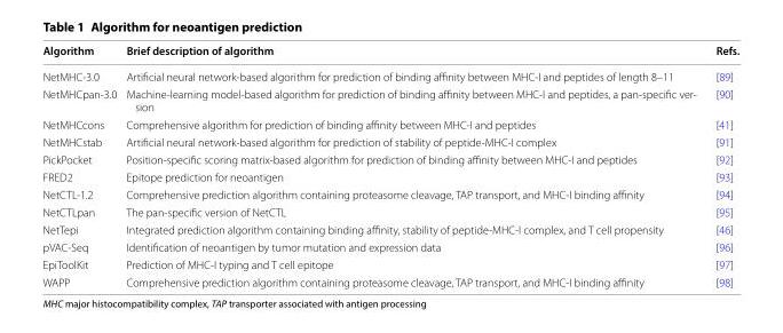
<table><thead><tr><td>Algorithm</td><td>Brief description of algorithm</td><td>Refs.</td></tr></thead><tbody><tr><td>NetMHC-3.0</td><td>Artificial neural network-based algorithm for prediction of binding affinity between MHC-I and peptides of length 8–11</td><td>[89]</td></tr><tr><td>NetMHCpan-3.0</td><td>Machine-learning model-based algorithm for prediction of binding affinity between MHC-I and peptides, a pan-specific ver- sion</td><td>[90]</td></tr><tr><td>NetMHCcons</td><td>Comprehensive algorithm for prediction of binding affinity between MHC-I and peptides</td><td>[41]</td></tr><tr><td>NetMHCstab</td><td>Artificial neural network-based algorithm for prediction of stability of peptide-MHC-I complex</td><td>[91]</td></tr><tr><td>PickPocket</td><td>Position-specific scoring matrix-based algorithm for prediction of binding affinity between MHC-I and peptides</td><td>[92]</td></tr><tr><td>FRED2</td><td>Epitope prediction for neoantigen</td><td>[93]</td></tr><tr><td>NetCTL-1.2</td><td>Comprehensive prediction algorithm containing proteasome cleavage, TAP transport, and MHC-I binding affinity</td><td>[94]</td></tr><tr><td>NetCTLpan</td><td>The pan-specific version of NetCTL</td><td>[95]</td></tr><tr><td>NetTepi</td><td>Integrated prediction algorithm containing binding affinity, stability of peptide-MHC-I complex, and T cell propensity</td><td>[46]</td></tr><tr><td>pVAC-Seq</td><td>Identification of neoantigen by tumor mutation and expression data</td><td>[96]</td></tr><tr><td>EpiToolKit</td><td>Prediction of MHC-I typing and T cell epitope</td><td>[97]</td></tr><tr><td>WAPP</td><td>Comprehensive prediction algorithm containing proteasome cleavage, TAP transport, and MHC-I binding affinity</td><td>[98]</td></tr></tbody></table>